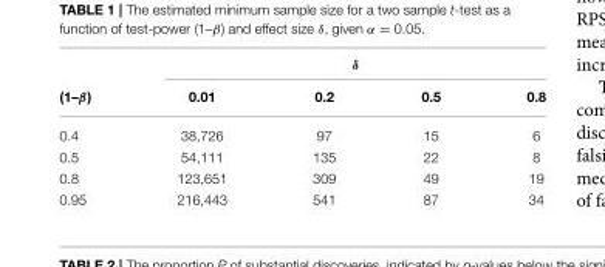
<table><thead><tr><td rowspan="2">(1–β)</td><td colspan="4">δ</td></tr><tr><td>0.01</td><td>0.2</td><td>0.5</td><td>0.8</td></tr></thead><tbody><tr><td>0.4</td><td>38,726</td><td>97</td><td>15</td><td>6</td></tr><tr><td>0.5</td><td>54,111</td><td>135</td><td>22</td><td>8</td></tr><tr><td>0.8</td><td>123,651</td><td>309</td><td>49</td><td>19</td></tr><tr><td>0.95</td><td>216,443</td><td>541</td><td>87</td><td>34</td></tr></tbody></table>